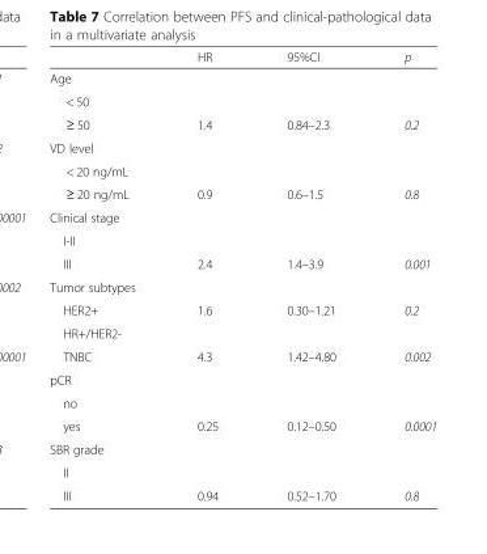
<table><thead><tr><td></td><td>HR</td><td>95%CI</td><td>p</td></tr></thead><tbody><tr><td colspan="4">Age</td></tr><tr><td colspan="4">&lt; 50</td></tr><tr><td>≥ 50</td><td>1.4</td><td>0.84–2.3</td><td>0.2</td></tr><tr><td colspan="4">VD level</td></tr><tr><td colspan="4">&lt; 20 ng/mL</td></tr><tr><td>≥ 20 ng/mL</td><td>0.9</td><td>0.6–1.5</td><td>0.8</td></tr><tr><td colspan="4">Clinical stage</td></tr><tr><td colspan="4">I-II</td></tr><tr><td>III</td><td>2.4</td><td>1.4–3.9</td><td>0.001</td></tr><tr><td colspan="4">Tumor subtypes</td></tr><tr><td>HER2+</td><td>1.6</td><td>0.30–1.21</td><td>0.2</td></tr><tr><td colspan="4">HR+/HER2-</td></tr><tr><td>TNBC</td><td>4.3</td><td>1.42–4.80</td><td>0.002</td></tr><tr><td colspan="4">pCR</td></tr><tr><td colspan="4">no</td></tr><tr><td>yes</td><td>0.25</td><td>0.12–0.50</td><td>0.0001</td></tr><tr><td colspan="4">SBR grade</td></tr><tr><td colspan="4">II</td></tr><tr><td>III</td><td>0.94</td><td>0.52–1.70</td><td>0.8</td></tr></tbody></table>